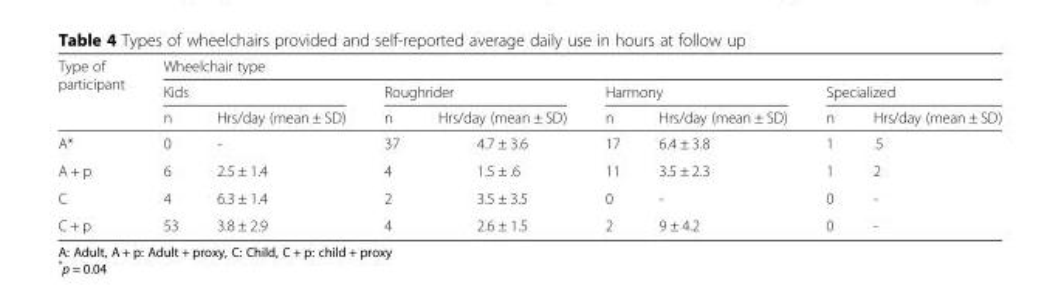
<table><thead><tr><td rowspan="3">Type of participant</td><td colspan="8">Wheelchair type</td></tr><tr><td colspan="2">Kids</td><td colspan="2">Roughrider</td><td colspan="2">Harmony</td><td colspan="2">Specialized</td></tr><tr><td>n</td><td>Hrs/day (mean ± SD)</td><td>n</td><td>Hrs/day (mean ± SD)</td><td>n</td><td>Hrs/day (mean ± SD)</td><td>n</td><td>Hrs/day (mean ± SD)</td></tr></thead><tbody><tr><td>A*</td><td>0</td><td>-</td><td>37</td><td>4.7 ± 3.6</td><td>17</td><td>6.4 ± 3.8</td><td>1</td><td>.5</td></tr><tr><td>A + p</td><td>6</td><td>2.5 ± 1.4</td><td>4</td><td>1.5 ± .6</td><td>11</td><td>3.5 ± 2.3</td><td>1</td><td>2</td></tr><tr><td>C</td><td>4</td><td>6.3 ± 1.4</td><td>2</td><td>3.5 ± 3.5</td><td>0</td><td>-</td><td>0</td><td>-</td></tr><tr><td>C + p</td><td>53</td><td>3.8 ± 2.9</td><td>4</td><td>2.6 ± 1.5</td><td>2</td><td>9 ± 4.2</td><td>0</td><td>-</td></tr></tbody></table>